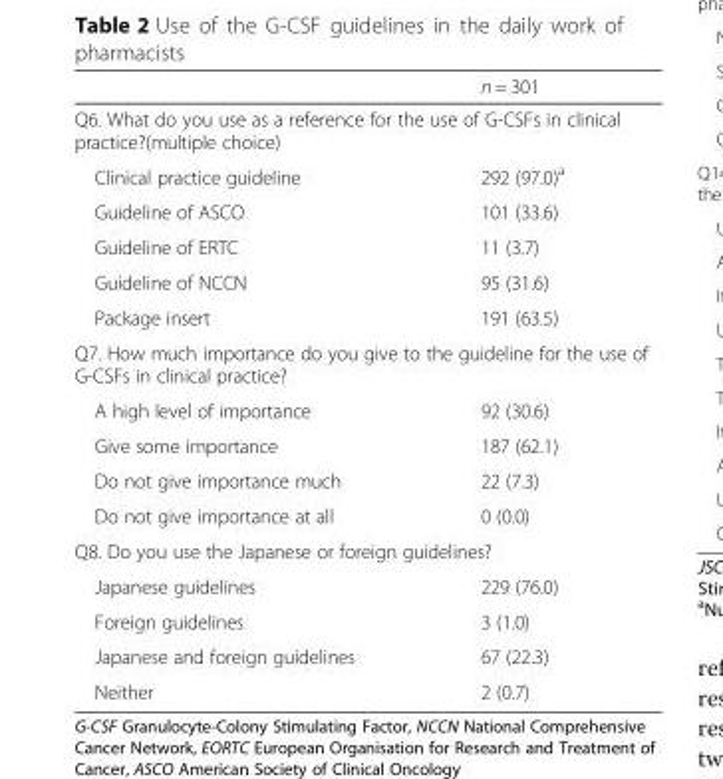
<table><thead><tr><td></td><td>n = 301</td></tr></thead><tbody><tr><td colspan="2">Q6. What do you use as a reference for the use of G-CSFs in clinical practice?(multiple choice)</td></tr><tr><td>Clinical practice guideline</td><td>292 (97.0)<sup>a</sup></td></tr><tr><td>Guideline of ASCO</td><td>101 (33.6)</td></tr><tr><td>Guideline of ERTC</td><td>11 (3.7)</td></tr><tr><td>Guideline of NCCN</td><td>95 (31.6)</td></tr><tr><td>Package insert</td><td>191 (63.5)</td></tr><tr><td colspan="2">Q7. How much importance do you give to the guideline for the use of G-CSFs in clinical practice?</td></tr><tr><td>A high level of importance</td><td>92 (30.6)</td></tr><tr><td>Give some importance</td><td>187 (62.1)</td></tr><tr><td>Do not give importance much</td><td>22 (7.3)</td></tr><tr><td>Do not give importance at all</td><td>0 (0.0)</td></tr><tr><td colspan="2">Q8. Do you use the Japanese or foreign guidelines?</td></tr><tr><td>Japanese guidelines</td><td>229 (76.0)</td></tr><tr><td>Foreign guidelines</td><td>3 (1.0)</td></tr><tr><td>Japanese and foreign guidelines</td><td>67 (22.3)</td></tr><tr><td>Neither</td><td>2 (0.7)</td></tr></tbody></table>